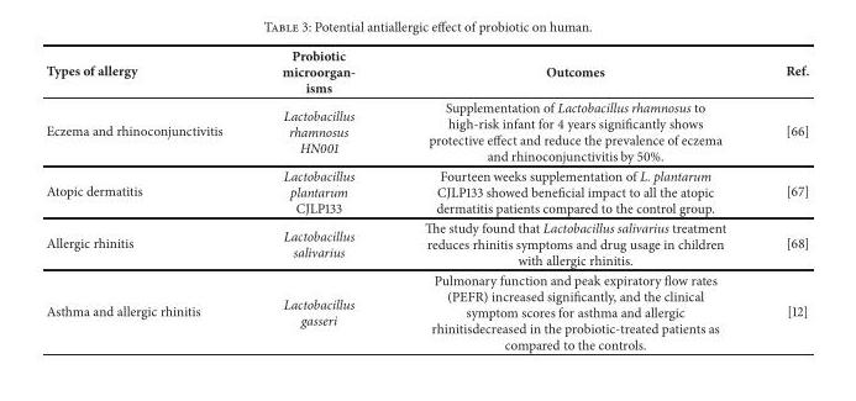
<table><thead><tr><td>Types of allergy</td><td>Probiotic microorgan- isms</td><td>Outcomes</td><td>Ref.</td></tr></thead><tbody><tr><td>Eczema and rhinoconjunctivitis</td><td>Lactobacillus rhamnosus HN001</td><td>Supplementation of Lactobacillus rhamnosus to high-risk infant for 4 years significantly shows protective effect and reduce the prevalence of eczema and rhinoconjunctivitis by 50%.</td><td>[66]</td></tr><tr><td>Atopic dermatitis</td><td>Lactobacillus plantarum CJLP133</td><td>Fourteen weeks supplementation of L. plantarum CJLP133 showed beneficial impact to all the atopic dermatitis patients compared to the control group.</td><td>[67]</td></tr><tr><td>Allergic rhinitis</td><td>Lactobacillus salivarius</td><td>The study found that Lactobacillus salivarius treatment reduces rhinitis symptoms and drug usage in children with allergic rhinitis.</td><td>[68]</td></tr><tr><td>Asthma and allergic rhinitis</td><td>Lactobacillus gasseri</td><td>Pulmonary function and peak expiratory flow rates (PEFR) increased significantly, and the clinical symptom scores for asthma and allergic rhinitisdecreased in the probiotic-treated patients as compared to the controls.</td><td>[12]</td></tr></tbody></table>